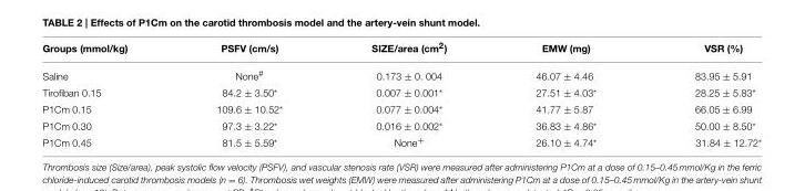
<table><thead><tr><td>Groups (mmol/kg)</td><td>PSFV (cm/s)</td><td>SIZE/area (cm<sup>2</sup>)</td><td>EMW (mg)</td><td>VSR (%)</td></tr></thead><tbody><tr><td>Saline</td><td>None<sup>#</sup></td><td>0.173 ± 0. 004</td><td>46.07 ± 4.46</td><td>83.95 ± 5.91</td></tr><tr><td>Tirofiban 0.15</td><td>84.2 ± 3.50*</td><td>0.007 ± 0.001*</td><td>27.51 ± 4.03*</td><td>28.25 ± 5.83*</td></tr><tr><td>P1Cm 0.15</td><td>109.6 ± 10.52*</td><td>0.077 ± 0.004*</td><td>41.77 ± 5.87</td><td>66.05 ± 6.99</td></tr><tr><td>P1Cm 0.30</td><td>97.3 ± 3.22*</td><td>0.016 ± 0.002*</td><td>36.83 ± 4.86*</td><td>50.00 ± 8.50*</td></tr><tr><td>P1Cm 0.45</td><td>81.5 ± 5.59*</td><td>None<sup>+</sup></td><td>26.10 ± 4.74*</td><td>31.84 ± 12.72*</td></tr></tbody></table>